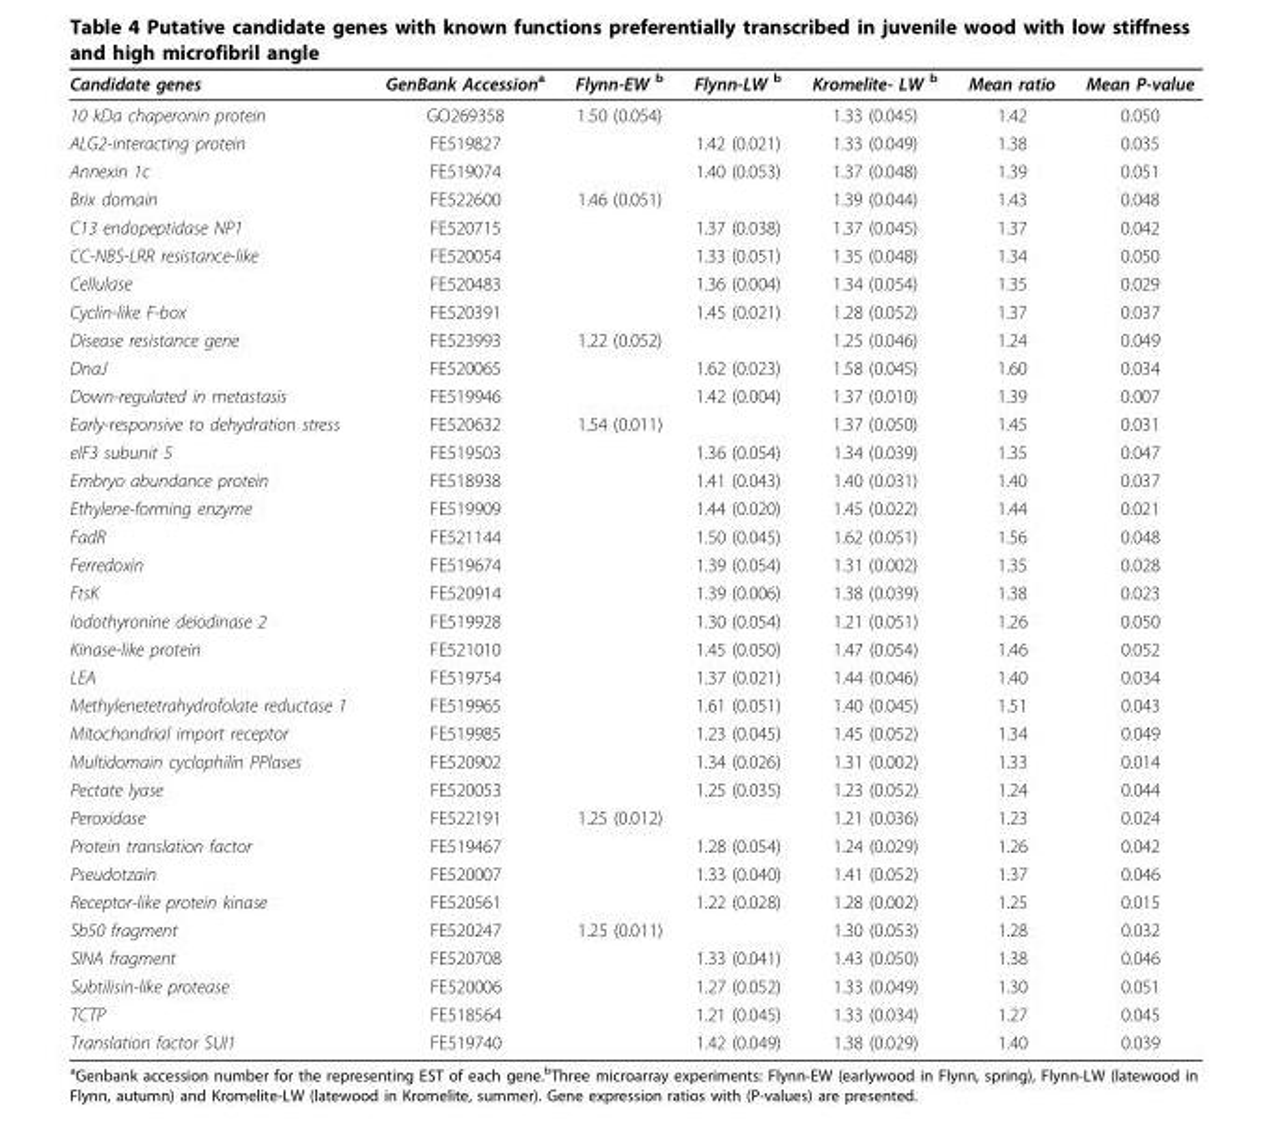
<table><thead><tr><td>Candidate genes</td><td>GenBank Accession<sup>a</sup></td><td>Flynn-EW <sup>b</sup></td><td>Flynn-LW <sup>b</sup></td><td>Kromelite- LW <sup>b</sup></td><td>Mean ratio</td><td>Mean P-value</td></tr></thead><tbody><tr><td>10 kDa chaperonin protein</td><td>GO269358</td><td>1.50 (0.054)</td><td></td><td>1.33 (0.045)</td><td>1.42</td><td>0.050</td></tr><tr><td>ALG2-interacting protein</td><td>FE519827</td><td></td><td>1.42 (0.021)</td><td>1.33 (0.049)</td><td>1.38</td><td>0.035</td></tr><tr><td>Annexin 1c</td><td>FE519074</td><td></td><td>1.40 (0.053)</td><td>1.37 (0.048)</td><td>1.39</td><td>0.051</td></tr><tr><td>Brix domain</td><td>FE522600</td><td>1.46 (0.051)</td><td></td><td>1.39 (0.044)</td><td>1.43</td><td>0.048</td></tr><tr><td>C13 endopeptidase NP1</td><td>FE520715</td><td></td><td>1.37 (0.038)</td><td>1.37 (0.045)</td><td>1.37</td><td>0.042</td></tr><tr><td>CC-NBS-LRR resistance-like</td><td>FE520054</td><td></td><td>1.33 (0.051)</td><td>1.35 (0.048)</td><td>1.34</td><td>0.050</td></tr><tr><td>Cellulase</td><td>FE520483</td><td></td><td>1.36 (0.004)</td><td>1.34 (0.054)</td><td>1.35</td><td>0.029</td></tr><tr><td>Cyclin-like F-box</td><td>FE520391</td><td></td><td>1.45 (0.021)</td><td>1.28 (0.052)</td><td>1.37</td><td>0.037</td></tr><tr><td>Disease resistance gene</td><td>FE523993</td><td>1.22 (0.052)</td><td></td><td>1.25 (0.046)</td><td>1.24</td><td>0.049</td></tr><tr><td>DnaJ</td><td>FE520065</td><td></td><td>1.62 (0.023)</td><td>1.58 (0.045)</td><td>1.60</td><td>0.034</td></tr><tr><td>Down-regulated in metastasis</td><td>FE519946</td><td></td><td>1.42 (0.004)</td><td>1.37 (0.010)</td><td>1.39</td><td>0.007</td></tr><tr><td>Early-responsive to dehydration stress</td><td>FE520632</td><td>1.54 (0.011)</td><td></td><td>1.37 (0.050)</td><td>1.45</td><td>0.031</td></tr><tr><td>eIF3 subunit 5</td><td>FE519503</td><td></td><td>1.36 (0.054)</td><td>1.34 (0.039)</td><td>1.35</td><td>0.047</td></tr><tr><td>Embryo abundance protein</td><td>FE518938</td><td></td><td>1.41 (0.043)</td><td>1.40 (0.031)</td><td>1.40</td><td>0.037</td></tr><tr><td>Ethylene-forming enzyme</td><td>FE519909</td><td></td><td>1.44 (0.020)</td><td>1.45 (0.022)</td><td>1.44</td><td>0.021</td></tr><tr><td>FadR</td><td>FE521144</td><td></td><td>1.50 (0.045)</td><td>1.62 (0.051)</td><td>1.56</td><td>0.048</td></tr><tr><td>Ferredoxin</td><td>FE519674</td><td></td><td>1.39 (0.054)</td><td>1.31 (0.002)</td><td>1.35</td><td>0.028</td></tr><tr><td>FtsK</td><td>FE520914</td><td></td><td>1.39 (0.006)</td><td>1.38 (0.039)</td><td>1.38</td><td>0.023</td></tr><tr><td>Iodothyronine deiodinase 2</td><td>FE519928</td><td></td><td>1.30 (0.054)</td><td>1.21 (0.051)</td><td>1.26</td><td>0.050</td></tr><tr><td>Kinase-like protein</td><td>FE521010</td><td></td><td>1.45 (0.050)</td><td>1.47 (0.054)</td><td>1.46</td><td>0.052</td></tr><tr><td>LEA</td><td>FE519754</td><td></td><td>1.37 (0.021)</td><td>1.44 (0.046)</td><td>1.40</td><td>0.034</td></tr><tr><td>Methylenetetrahydrofolate reductase 1</td><td>FE519965</td><td></td><td>1.61 (0.051)</td><td>1.40 (0.045)</td><td>1.51</td><td>0.043</td></tr><tr><td>Mitochondrial import receptor</td><td>FE519985</td><td></td><td>1.23 (0.045)</td><td>1.45 (0.052)</td><td>1.34</td><td>0.049</td></tr><tr><td>Multidomain cyclophilin PPlases</td><td>FE520902</td><td></td><td>1.34 (0.026)</td><td>1.31 (0.002)</td><td>1.33</td><td>0.014</td></tr><tr><td>Pectate lyase</td><td>FE520053</td><td></td><td>1.25 (0.035)</td><td>1.23 (0.052)</td><td>1.24</td><td>0.044</td></tr><tr><td>Peroxidase</td><td>FE522191</td><td>1.25 (0.012)</td><td></td><td>1.21 (0.036)</td><td>1.23</td><td>0.024</td></tr><tr><td>Protein translation factor</td><td>FE519467</td><td></td><td>1.28 (0.054)</td><td>1.24 (0.029)</td><td>1.26</td><td>0.042</td></tr><tr><td>Pseudotzain</td><td>FE520007</td><td></td><td>1.33 (0.040)</td><td>1.41 (0.052)</td><td>1.37</td><td>0.046</td></tr><tr><td>Receptor-like protein kinase</td><td>FE520561</td><td></td><td>1.22 (0.028)</td><td>1.28 (0.002)</td><td>1.25</td><td>0.015</td></tr><tr><td>Sb50 fragment</td><td>FE520247</td><td>1.25 (0.011)</td><td></td><td>1.30 (0.053)</td><td>1.28</td><td>0.032</td></tr><tr><td>SINA fragment</td><td>FE520708</td><td></td><td>1.33 (0.041)</td><td>1.43 (0.050)</td><td>1.38</td><td>0.046</td></tr><tr><td>Subtilisin-like protease</td><td>FE520006</td><td></td><td>1.27 (0.052)</td><td>1.33 (0.049)</td><td>1.30</td><td>0.051</td></tr><tr><td>TCTP</td><td>FE518564</td><td></td><td>1.21 (0.045)</td><td>1.33 (0.034)</td><td>1.27</td><td>0.045</td></tr><tr><td>Translation factor SUI1</td><td>FE519740</td><td></td><td>1.42 (0.049)</td><td>1.38 (0.029)</td><td>1.40</td><td>0.039</td></tr></tbody></table>